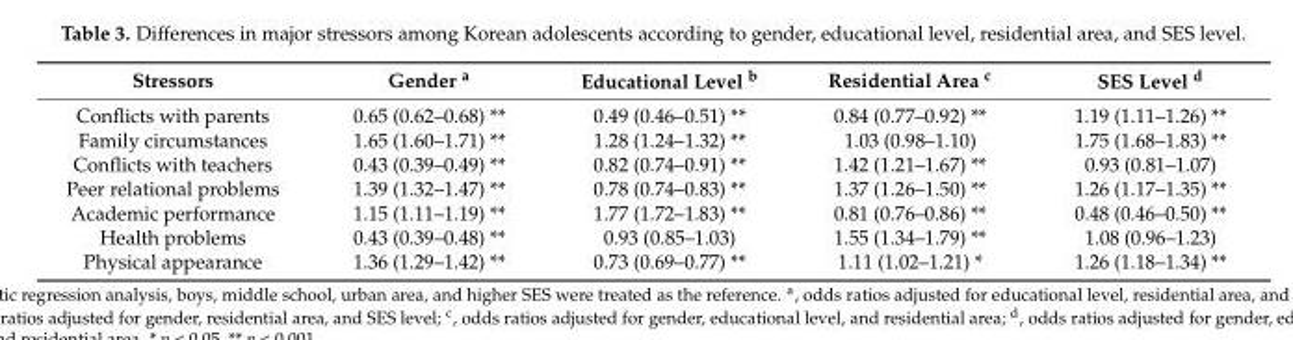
<table><thead><tr><td>Stressors</td><td>Gender <sup>a</sup></td><td>Educational Level <sup>b</sup></td><td>Residential Area <sup>c</sup></td><td>SES Level <sup>d</sup></td></tr></thead><tbody><tr><td>Conflicts with parents</td><td>0.65 (0.62–0.68) **</td><td>0.49 (0.46–0.51) **</td><td>0.84 (0.77–0.92) **</td><td>1.19 (1.11–1.26) **</td></tr><tr><td>Family circumstances</td><td>1.65 (1.60–1.71) **</td><td>1.28 (1.24–1.32) **</td><td>1.03 (0.98–1.10)</td><td>1.75 (1.68–1.83) **</td></tr><tr><td>Conflicts with teachers</td><td>0.43 (0.39–0.49) **</td><td>0.82 (0.74–0.91) **</td><td>1.42 (1.21–1.67) **</td><td>0.93 (0.81–1.07)</td></tr><tr><td>Peer relational problems</td><td>1.39 (1.32–1.47) **</td><td>0.78 (0.74–0.83) **</td><td>1.37 (1.26–1.50) **</td><td>1.26 (1.17–1.35) **</td></tr><tr><td>Academic performance</td><td>1.15 (1.11–1.19) **</td><td>1.77 (1.72–1.83) **</td><td>0.81 (0.76–0.86) **</td><td>0.48 (0.46–0.50) **</td></tr><tr><td>Health problems</td><td>0.43 (0.39–0.48) **</td><td>0.93 (0.85–1.03)</td><td>1.55 (1.34–1.79) **</td><td>1.08 (0.96–1.23)</td></tr><tr><td>Physical appearance</td><td>1.36 (1.29–1.42) **</td><td>0.73 (0.69–0.77) **</td><td>1.11 (1.02–1.21) *</td><td>1.26 (1.18–1.34) **</td></tr></tbody></table>